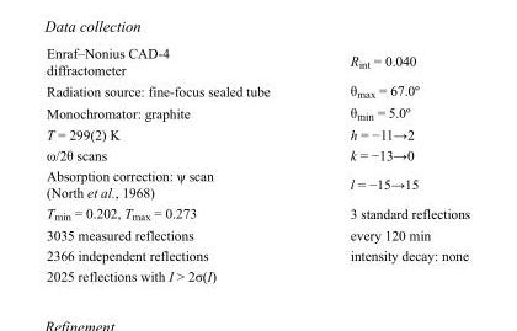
<table><tbody><tr><td>Enraf–Nonius CAD-4 diffractometer</td><td>R<sub>int</sub> = 0.040</td></tr><tr><td>Radiation source: fine-focus sealed tube</td><td>θ<sub>max</sub> = 67.0º</td></tr><tr><td>Monochromator: graphite</td><td>θ<sub>min</sub> = 5.0º</td></tr><tr><td>T = 299(2) K</td><td>h = −11→2</td></tr><tr><td>ω/2θ scans</td><td>k = −13→0</td></tr><tr><td>Absorption correction: ψ scan (North et al., 1968)</td><td>l = −15→15</td></tr><tr><td>T<sub>min</sub> = 0.202, T<sub>max</sub> = 0.273</td><td>3 standard reflections</td></tr><tr><td>3035 measured reflections</td><td>every 120 min</td></tr><tr><td>2366 independent reflections</td><td>intensity decay: none</td></tr><tr><td>2025 reflections with I &gt; 2σ(I)</td><td></td></tr></tbody></table>